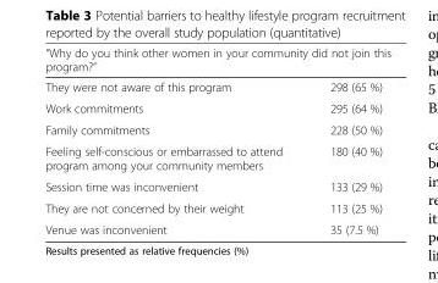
<table><thead><tr><td colspan="2">“Why do you think other women in your community did not join this program?”</td></tr><tr><td>They were not aware of this program</td><td>298 (65 %)</td></tr></thead><tbody><tr><td>Work commitments</td><td>295 (64 %)</td></tr><tr><td>Family commitments</td><td>228 (50 %)</td></tr><tr><td>Feeling self-conscious or embarrassed to attend program among your community members</td><td>180 (40 %)</td></tr><tr><td>Session time was inconvenient</td><td>133 (29 %)</td></tr><tr><td>They are not concerned by their weight</td><td>113 (25 %)</td></tr><tr><td>Venue was inconvenient</td><td>35 (7.5 %)</td></tr></tbody></table>